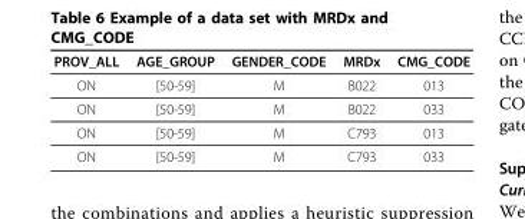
<table><thead><tr><td>PROV_ALL</td><td>AGE_GROUP</td><td>GENDER_CODE</td><td>MRDx</td><td>CMG_CODE</td></tr></thead><tbody><tr><td>ON</td><td>[50-59]</td><td>M</td><td>B022</td><td>013</td></tr><tr><td>ON</td><td>[50-59]</td><td>M</td><td>B022</td><td>033</td></tr><tr><td>ON</td><td>[50-59]</td><td>M</td><td>C793</td><td>013</td></tr><tr><td>ON</td><td>[50-59]</td><td>M</td><td>C793</td><td>033</td></tr></tbody></table>